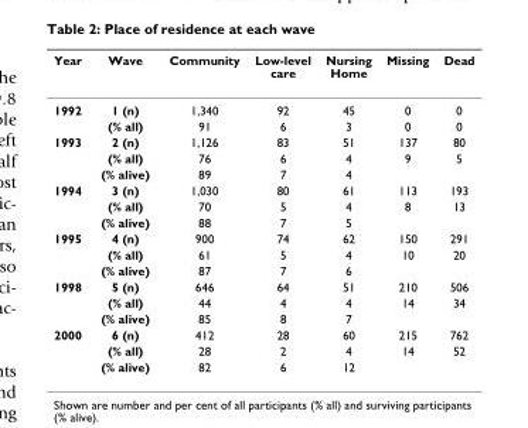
<table><thead><tr><td>Year</td><td>Wave</td><td>Community</td><td>Low-level care</td><td>Nursing Home</td><td>Missing</td><td>Dead</td></tr></thead><tbody><tr><td rowspan="2">1992</td><td>1 (n)</td><td>1,340</td><td>92</td><td>45</td><td>0</td><td>0</td></tr><tr><td>(% all)</td><td>91</td><td>6</td><td>3</td><td>0</td><td>0</td></tr><tr><td rowspan="3">1993</td><td>2 (n)</td><td>1,126</td><td>83</td><td>51</td><td>137</td><td>80</td></tr><tr><td>(% all)</td><td>76</td><td>6</td><td>4</td><td>9</td><td>5</td></tr><tr><td>(% alive)</td><td>89</td><td>7</td><td>4</td><td></td><td></td></tr><tr><td rowspan="3">1994</td><td>3 (n)</td><td>1,030</td><td>80</td><td>61</td><td>113</td><td>193</td></tr><tr><td>(% all)</td><td>70</td><td>5</td><td>4</td><td>8</td><td>13</td></tr><tr><td>(% alive)</td><td>88</td><td>7</td><td>5</td><td></td><td></td></tr><tr><td rowspan="3">1995</td><td>4 (n)</td><td>900</td><td>74</td><td>62</td><td>150</td><td>291</td></tr><tr><td>(% all)</td><td>61</td><td>5</td><td>4</td><td>10</td><td>20</td></tr><tr><td>(% alive)</td><td>87</td><td>7</td><td>6</td><td></td><td></td></tr><tr><td rowspan="3">1998</td><td>5 (n)</td><td>646</td><td>64</td><td>51</td><td>210</td><td>506</td></tr><tr><td>(% all)</td><td>44</td><td>4</td><td>4</td><td>14</td><td>34</td></tr><tr><td>(% alive)</td><td>85</td><td>8</td><td>7</td><td></td><td></td></tr><tr><td rowspan="3">2000</td><td>6 (n)</td><td>412</td><td>28</td><td>60</td><td>215</td><td>762</td></tr><tr><td>(% all)</td><td>28</td><td>2</td><td>4</td><td>14</td><td>52</td></tr><tr><td>(% alive)</td><td>82</td><td>6</td><td>12</td><td></td><td></td></tr></tbody></table>